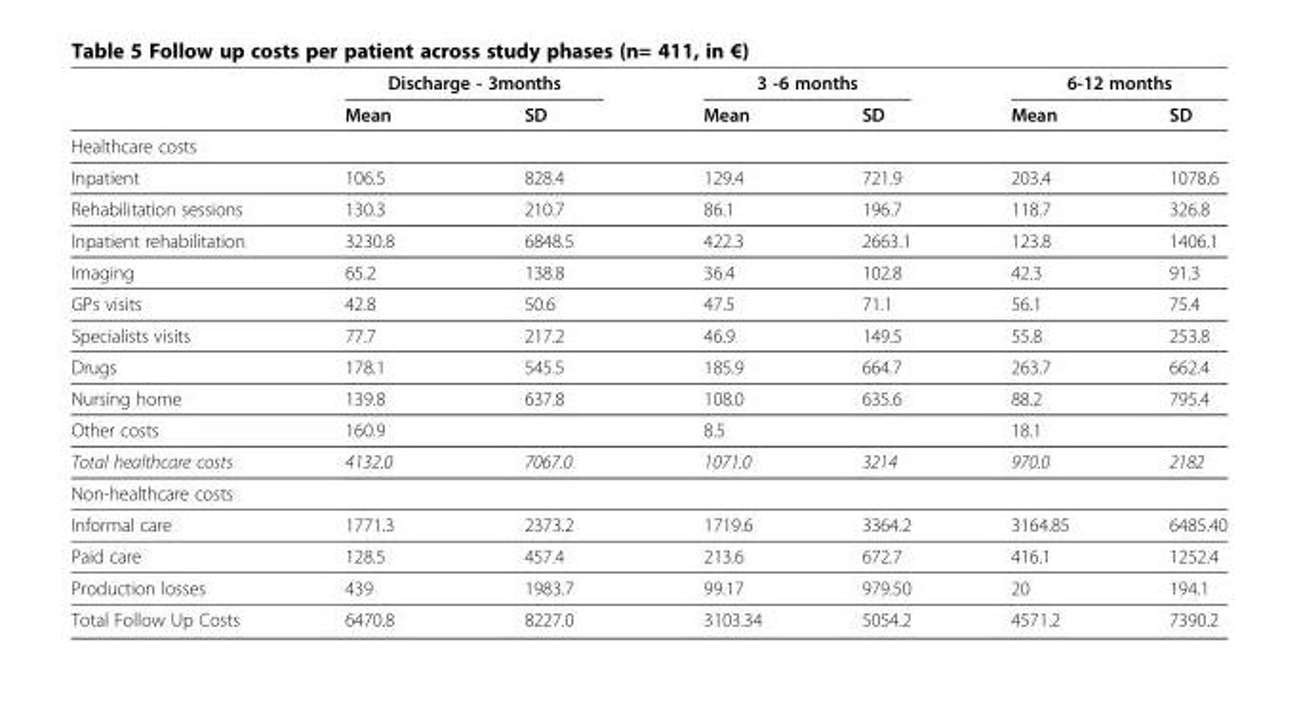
<table><thead><tr><td rowspan="2"></td><td colspan="2">Discharge - 3months</td><td colspan="2">3 -6 months</td><td colspan="2">6-12 months</td></tr><tr><td>Mean</td><td>SD</td><td>Mean</td><td>SD</td><td>Mean</td><td>SD</td></tr></thead><tbody><tr><td colspan="7">Healthcare costs</td></tr><tr><td>Inpatient</td><td>106.5</td><td>828.4</td><td>129.4</td><td>721.9</td><td>203.4</td><td>1078.6</td></tr><tr><td>Rehabilitation sessions</td><td>130.3</td><td>210.7</td><td>86.1</td><td>196.7</td><td>118.7</td><td>326.8</td></tr><tr><td>Inpatient rehabilitation</td><td>3230.8</td><td>6848.5</td><td>422.3</td><td>2663.1</td><td>123.8</td><td>1406.1</td></tr><tr><td>Imaging</td><td>65.2</td><td>138.8</td><td>36.4</td><td>102.8</td><td>42.3</td><td>91.3</td></tr><tr><td>GPs visits</td><td>42.8</td><td>50.6</td><td>47.5</td><td>71.1</td><td>56.1</td><td>75.4</td></tr><tr><td>Specialists visits</td><td>77.7</td><td>217.2</td><td>46.9</td><td>149.5</td><td>55.8</td><td>253.8</td></tr><tr><td>Drugs</td><td>178.1</td><td>545.5</td><td>185.9</td><td>664.7</td><td>263.7</td><td>662.4</td></tr><tr><td>Nursing home</td><td>139.8</td><td>637.8</td><td>108.0</td><td>635.6</td><td>88.2</td><td>795.4</td></tr><tr><td>Other costs</td><td>160.9</td><td></td><td>8.5</td><td></td><td>18.1</td><td></td></tr><tr><td>Total healthcare costs</td><td>4132.0</td><td>7067.0</td><td>1071.0</td><td>3214</td><td>970.0</td><td>2182</td></tr><tr><td colspan="7">Non-healthcare costs</td></tr><tr><td>Informal care</td><td>1771.3</td><td>2373.2</td><td>1719.6</td><td>3364.2</td><td>3164.85</td><td>6485.40</td></tr><tr><td>Paid care</td><td>128.5</td><td>457.4</td><td>213.6</td><td>672.7</td><td>416.1</td><td>1252.4</td></tr><tr><td>Production losses</td><td>439</td><td>1983.7</td><td>99.17</td><td>979.50</td><td>20</td><td>194.1</td></tr><tr><td>Total Follow Up Costs</td><td>6470.8</td><td>8227.0</td><td>3103.34</td><td>5054.2</td><td>4571.2</td><td>7390.2</td></tr></tbody></table>